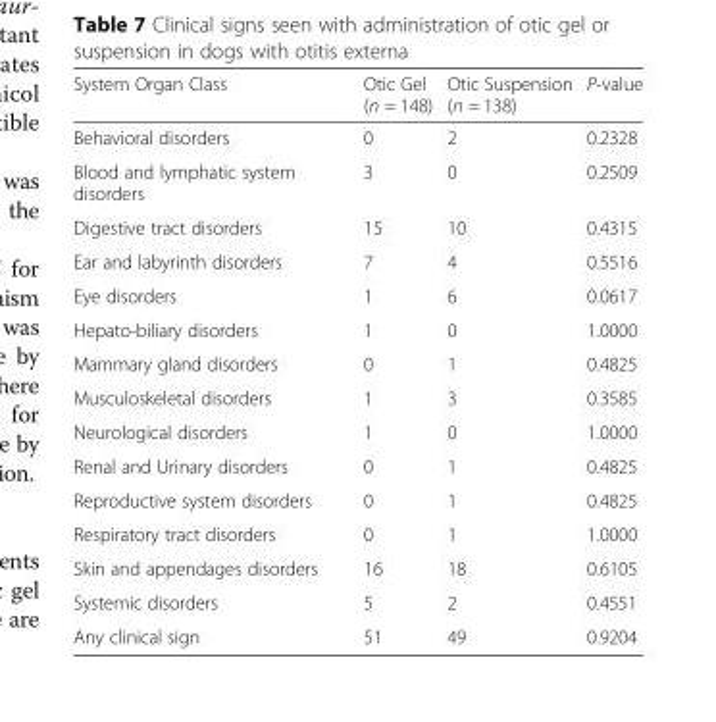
<table><thead><tr><td>System Organ Class</td><td>Otic Gel (n = 148)</td><td>Otic Suspension (n = 138)</td><td>P-value</td></tr></thead><tbody><tr><td>Behavioral disorders</td><td>0</td><td>2</td><td>0.2328</td></tr><tr><td>Blood and lymphatic system disorders</td><td>3</td><td>0</td><td>0.2509</td></tr><tr><td>Digestive tract disorders</td><td>15</td><td>10</td><td>0.4315</td></tr><tr><td>Ear and labyrinth disorders</td><td>7</td><td>4</td><td>0.5516</td></tr><tr><td>Eye disorders</td><td>1</td><td>6</td><td>0.0617</td></tr><tr><td>Hepato-biliary disorders</td><td>1</td><td>0</td><td>1.0000</td></tr><tr><td>Mammary gland disorders</td><td>0</td><td>1</td><td>0.4825</td></tr><tr><td>Musculoskeletal disorders</td><td>1</td><td>3</td><td>0.3585</td></tr><tr><td>Neurological disorders</td><td>1</td><td>0</td><td>1.0000</td></tr><tr><td>Renal and Urinary disorders</td><td>0</td><td>1</td><td>0.4825</td></tr><tr><td>Reproductive system disorders</td><td>0</td><td>1</td><td>0.4825</td></tr><tr><td>Respiratory tract disorders</td><td>0</td><td>1</td><td>1.0000</td></tr><tr><td>Skin and appendages disorders</td><td>16</td><td>18</td><td>0.6105</td></tr><tr><td>Systemic disorders</td><td>5</td><td>2</td><td>0.4551</td></tr><tr><td>Any clinical sign</td><td>51</td><td>49</td><td>0.9204</td></tr></tbody></table>